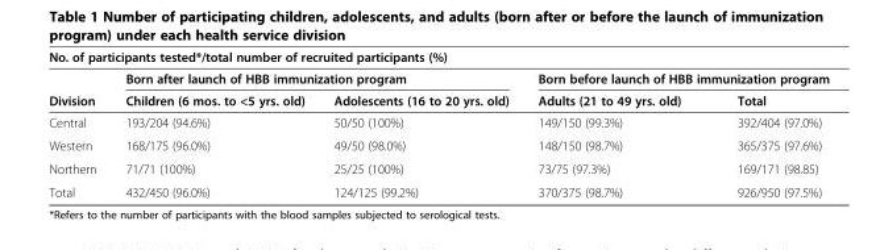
<table><thead><tr><td colspan="5">No. of participants tested*/total number of recruited participants (%)</td></tr><tr><td rowspan="2">Division</td><td colspan="2">Born after launch of HBB immunization program</td><td colspan="2">Born before launch of HBB immunization program</td></tr><tr><td>Children (6 mos. to &lt;5 yrs. old)</td><td>Adolescents (16 to 20 yrs. old)</td><td>Adults (21 to 49 yrs. old)</td><td>Total</td></tr></thead><tbody><tr><td>Central</td><td>193/204 (94.6%)</td><td>50/50 (100%)</td><td>149/150 (99.3%)</td><td>392/404 (97.0%)</td></tr><tr><td>Western</td><td>168/175 (96.0%)</td><td>49/50 (98.0%)</td><td>148/150 (98.7%)</td><td>365/375 (97.6%)</td></tr><tr><td>Northern</td><td>71/71 (100%)</td><td>25/25 (100%)</td><td>73/75 (97.3%)</td><td>169/171 (98.85)</td></tr><tr><td>Total</td><td>432/450 (96.0%)</td><td>124/125 (99.2%)</td><td>370/375 (98.7%)</td><td>926/950 (97.5%)</td></tr></tbody></table>